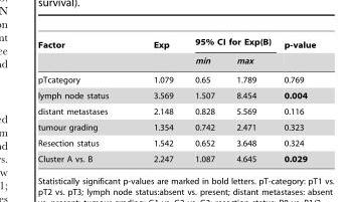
<table><thead><tr><td rowspan="2">Factor</td><td rowspan="2">Exp</td><td colspan="2">95% CI for Exp(B)</td><td rowspan="2">p-value</td></tr><tr><td>min</td><td>max</td></tr></thead><tbody><tr><td>pTcategory</td><td>1.079</td><td>0.65</td><td>1.789</td><td>0.769</td></tr><tr><td>lymph node status</td><td>3.569</td><td>1.507</td><td>8.454</td><td>0.004</td></tr><tr><td>distant metastases</td><td>2.148</td><td>0.828</td><td>5.569</td><td>0.116</td></tr><tr><td>tumour grading</td><td>1.354</td><td>0.742</td><td>2.471</td><td>0.323</td></tr><tr><td>Resection status</td><td>1.542</td><td>0.652</td><td>3.648</td><td>0.324</td></tr><tr><td>Cluster A vs. B</td><td>2.247</td><td>1.087</td><td>4.645</td><td>0.029</td></tr></tbody></table>